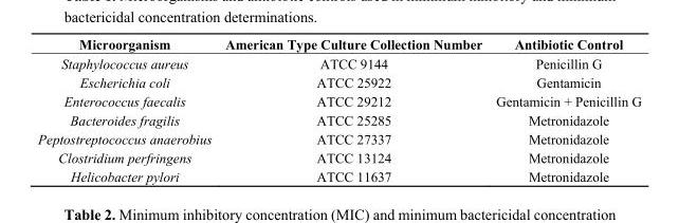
<table><thead><tr><td>Microorganism</td><td>American Type Culture Collection Number</td><td>Antibiotic Control</td></tr></thead><tbody><tr><td>Staphylococcus aureus</td><td>ATCC 9144</td><td>Penicillin G</td></tr><tr><td>Escherichia coli</td><td>ATCC 25922</td><td>Gentamicin</td></tr><tr><td>Enterococcus faecalis</td><td>ATCC 29212</td><td>Gentamicin + Penicillin G</td></tr><tr><td>Bacteroides fragilis</td><td>ATCC 25285</td><td>Metronidazole</td></tr><tr><td>Peptostreptococcus anaerobius</td><td>ATCC 27337</td><td>Metronidazole</td></tr><tr><td>Clostridium perfringens</td><td>ATCC 13124</td><td>Metronidazole</td></tr><tr><td>Helicobacter pylori</td><td>ATCC 11637</td><td>Metronidazole</td></tr></tbody></table>